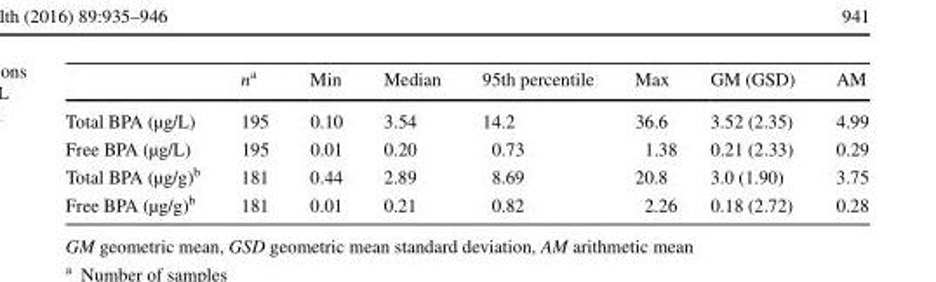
<table><thead><tr><td></td><td>n<sup>a</sup></td><td>Min</td><td>Median</td><td>95th percentile</td><td>Max</td><td>GM (GSD)</td><td>AM</td></tr></thead><tbody><tr><td>Total BPA (µg/L)</td><td>195</td><td>0.10</td><td>3.54</td><td>14.2</td><td>36.6</td><td>3.52 (2.35)</td><td>4.99</td></tr><tr><td>Free BPA (µg/L)</td><td>195</td><td>0.01</td><td>0.20</td><td>0.73</td><td>1.38</td><td>0.21 (2.33)</td><td>0.29</td></tr><tr><td>Total BPA (µg/g)<sup>b</sup></td><td>181</td><td>0.44</td><td>2.89</td><td>8.69</td><td>20.8</td><td>3.0 (1.90)</td><td>3.75</td></tr><tr><td>Free BPA (µg/g)<sup>b</sup></td><td>181</td><td>0.01</td><td>0.21</td><td>0.82</td><td>2.26</td><td>0.18 (2.72)</td><td>0.28</td></tr></tbody></table>